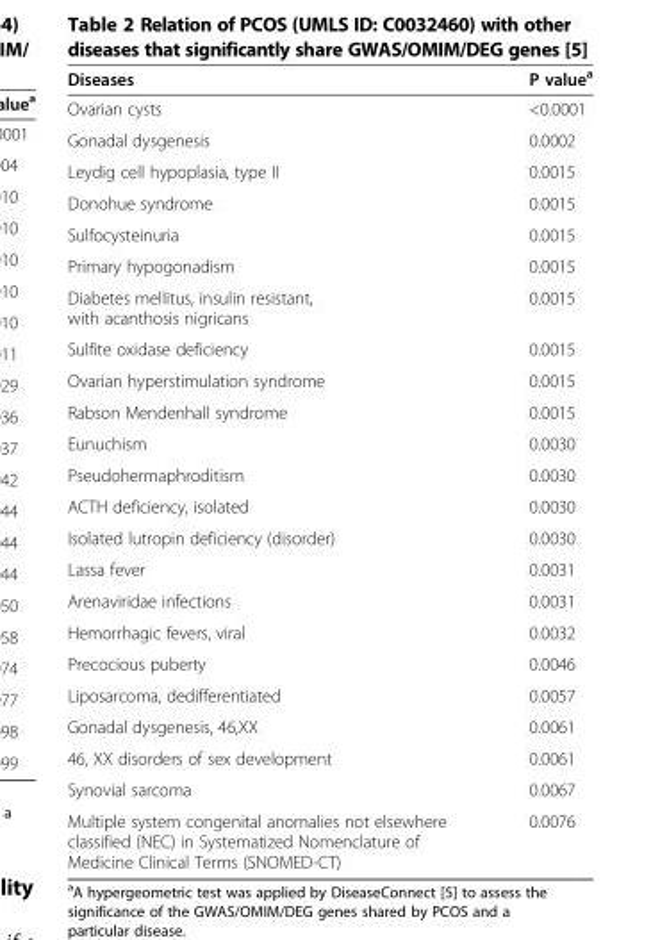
<table><thead><tr><td>Diseases</td><td>P value<sup>a</sup></td></tr></thead><tbody><tr><td>Ovarian cysts</td><td>&lt;0.0001</td></tr><tr><td>Gonadal dysgenesis</td><td>0.0002</td></tr><tr><td>Leydig cell hypoplasia, type II</td><td>0.0015</td></tr><tr><td>Donohue syndrome</td><td>0.0015</td></tr><tr><td>Sulfocysteinuria</td><td>0.0015</td></tr><tr><td>Primary hypogonadism</td><td>0.0015</td></tr><tr><td>Diabetes mellitus, insulin resistant, with acanthosis nigricans</td><td>0.0015</td></tr><tr><td>Sulfite oxidase deficiency</td><td>0.0015</td></tr><tr><td>Ovarian hyperstimulation syndrome</td><td>0.0015</td></tr><tr><td>Rabson Mendenhall syndrome</td><td>0.0015</td></tr><tr><td>Eunuchism</td><td>0.0030</td></tr><tr><td>Pseudohermaphroditism</td><td>0.0030</td></tr><tr><td>ACTH deficiency, isolated</td><td>0.0030</td></tr><tr><td>Isolated lutropin deficiency (disorder)</td><td>0.0030</td></tr><tr><td>Lassa fever</td><td>0.0031</td></tr><tr><td>Arenaviridae infections</td><td>0.0031</td></tr><tr><td>Hemorrhagic fevers, viral</td><td>0.0032</td></tr><tr><td>Precocious puberty</td><td>0.0046</td></tr><tr><td>Liposarcoma, dedifferentiated</td><td>0.0057</td></tr><tr><td>Gonadal dysgenesis, 46,XX</td><td>0.0061</td></tr><tr><td>46, XX disorders of sex development</td><td>0.0061</td></tr><tr><td>Synovial sarcoma</td><td>0.0067</td></tr><tr><td>Multiple system congenital anomalies not elsewhere classified (NEC) in Systematized Nomenclature of Medicine Clinical Terms (SNOMED-CT)</td><td>0.0076</td></tr></tbody></table>